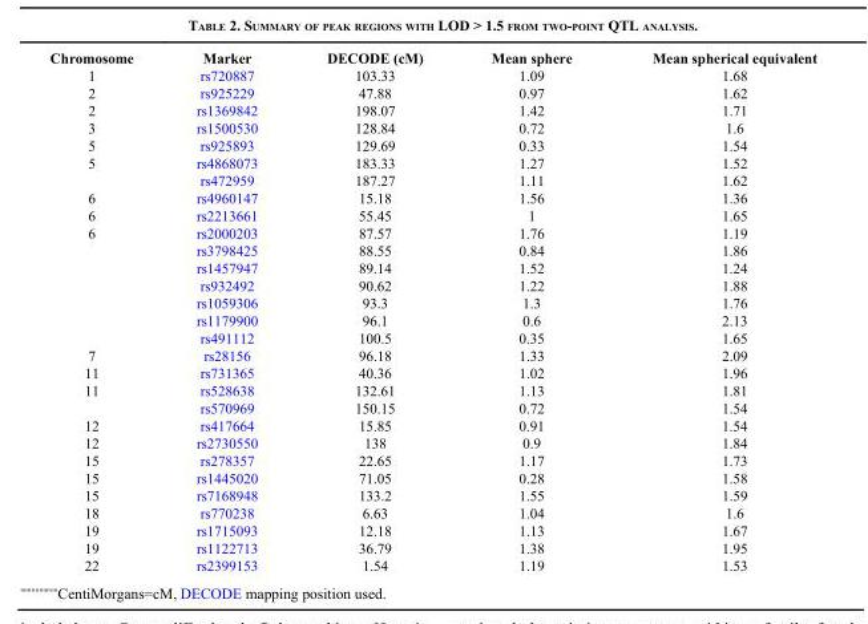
<table><thead><tr><td>Chromosome</td><td>Marker</td><td>DECODE (cM)</td><td>Mean sphere</td><td>Mean spherical equivalent</td></tr></thead><tbody><tr><td>1</td><td>rs720887</td><td>103.33</td><td>1.09</td><td>1.68</td></tr><tr><td>2</td><td>rs925229</td><td>47.88</td><td>0.97</td><td>1.62</td></tr><tr><td>2</td><td>rs1369842</td><td>198.07</td><td>1.42</td><td>1.71</td></tr><tr><td>3</td><td>rs1500530</td><td>128.84</td><td>0.72</td><td>1.6</td></tr><tr><td>5</td><td>rs925893</td><td>129.69</td><td>0.33</td><td>1.54</td></tr><tr><td rowspan="2">5</td><td>rs4868073</td><td>183.33</td><td>1.27</td><td>1.52</td></tr><tr><td>rs472959</td><td>187.27</td><td>1.11</td><td>1.62</td></tr><tr><td>6</td><td>rs4960147</td><td>15.18</td><td>1.56</td><td>1.36</td></tr><tr><td>6</td><td>rs2213661</td><td>55.45</td><td>1</td><td>1.65</td></tr><tr><td rowspan="7">6</td><td>rs2000203</td><td>87.57</td><td>1.76</td><td>1.19</td></tr><tr><td>rs3798425</td><td>88.55</td><td>0.84</td><td>1.86</td></tr><tr><td>rs1457947</td><td>89.14</td><td>1.52</td><td>1.24</td></tr><tr><td>rs932492</td><td>90.62</td><td>1.22</td><td>1.88</td></tr><tr><td>rs1059306</td><td>93.3</td><td>1.3</td><td>1.76</td></tr><tr><td>rs1179900</td><td>96.1</td><td>0.6</td><td>2.13</td></tr><tr><td>rs491112</td><td>100.5</td><td>0.35</td><td>1.65</td></tr><tr><td>7</td><td>rs28156</td><td>96.18</td><td>1.33</td><td>2.09</td></tr><tr><td>11</td><td>rs731365</td><td>40.36</td><td>1.02</td><td>1.96</td></tr><tr><td rowspan="2">11</td><td>rs528638</td><td>132.61</td><td>1.13</td><td>1.81</td></tr><tr><td>rs570969</td><td>150.15</td><td>0.72</td><td>1.54</td></tr><tr><td>12</td><td>rs417664</td><td>15.85</td><td>0.91</td><td>1.54</td></tr><tr><td>12</td><td>rs2730550</td><td>138</td><td>0.9</td><td>1.84</td></tr><tr><td>15</td><td>rs278357</td><td>22.65</td><td>1.17</td><td>1.73</td></tr><tr><td>15</td><td>rs1445020</td><td>71.05</td><td>0.28</td><td>1.58</td></tr><tr><td>15</td><td>rs7168948</td><td>133.2</td><td>1.55</td><td>1.59</td></tr><tr><td>18</td><td>rs770238</td><td>6.63</td><td>1.04</td><td>1.6</td></tr><tr><td>19</td><td>rs1715093</td><td>12.18</td><td>1.13</td><td>1.67</td></tr><tr><td>19</td><td>rs1122713</td><td>36.79</td><td>1.38</td><td>1.95</td></tr><tr><td>22</td><td>rs2399153</td><td>1.54</td><td>1.19</td><td>1.53</td></tr></tbody></table>